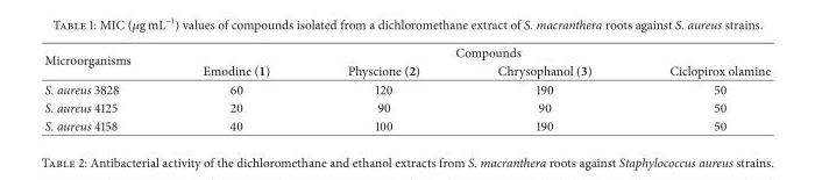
<table><thead><tr><td rowspan="2">Microorganisms</td><td colspan="4">Compounds</td></tr><tr><td>Emodine (1)</td><td>Physcione (2)</td><td>Chrysophanol (3)</td><td>Ciclopirox olamine</td></tr></thead><tbody><tr><td>S. aureus 3828</td><td>60</td><td>120</td><td>190</td><td>50</td></tr><tr><td>S. aureus 4125</td><td>20</td><td>90</td><td>90</td><td>50</td></tr><tr><td>S. aureus 4158</td><td>40</td><td>100</td><td>190</td><td>50</td></tr></tbody></table>